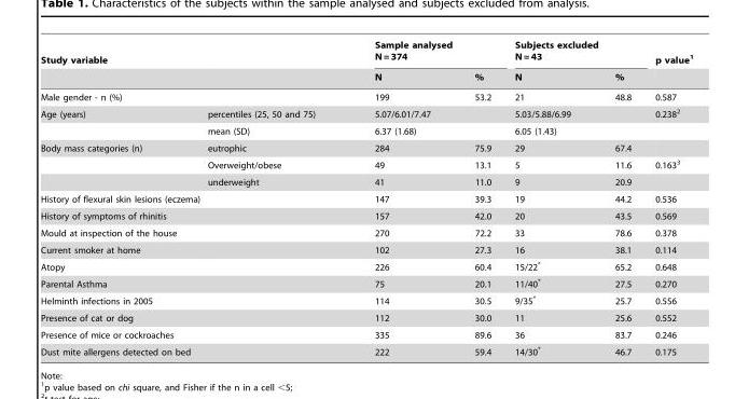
<table><thead><tr><td rowspan="2">Study variable</td><td rowspan="2"></td><td colspan="2">Sample analysed N = 374</td><td colspan="2">Subjects excluded N = 43</td><td rowspan="2">p value<sup>1</sup></td></tr><tr><td>N</td><td>%</td><td>N</td><td>%</td></tr></thead><tbody><tr><td>Male gender - n (%)</td><td></td><td>199</td><td>53.2</td><td>21</td><td>48.8</td><td>0.587</td></tr><tr><td rowspan="2">Age (years)</td><td>percentiles (25, 50 and 75)</td><td>5.07/6.01/7.47</td><td></td><td>5.03/5.88/6.99</td><td></td><td>0.238<sup>2</sup></td></tr><tr><td>mean (SD)</td><td>6.37 (1.68)</td><td></td><td>6.05 (1.43)</td><td></td><td></td></tr><tr><td rowspan="3">Body mass categories (n)</td><td>eutrophic</td><td>284</td><td>75.9</td><td>29</td><td>67.4</td><td></td></tr><tr><td>Overweight/obese</td><td>49</td><td>13.1</td><td>5</td><td>11.6</td><td>0.163<sup>3</sup></td></tr><tr><td>underweight</td><td>41</td><td>11.0</td><td>9</td><td>20.9</td><td></td></tr><tr><td>History of flexural skin lesions (eczema)</td><td></td><td>147</td><td>39.3</td><td>19</td><td>44.2</td><td>0.536</td></tr><tr><td>History of symptoms of rhinitis</td><td></td><td>157</td><td>42.0</td><td>20</td><td>43.5</td><td>0.569</td></tr><tr><td>Mould at inspection of the house</td><td></td><td>270</td><td>72.2</td><td>33</td><td>78.6</td><td>0.378</td></tr><tr><td>Current smoker at home</td><td></td><td>102</td><td>27.3</td><td>16</td><td>38.1</td><td>0.114</td></tr><tr><td>Atopy</td><td></td><td>226</td><td>60.4</td><td>15/22*</td><td>65.2</td><td>0.648</td></tr><tr><td>Parental Asthma</td><td></td><td>75</td><td>20.1</td><td>11/40*</td><td>27.5</td><td>0.270</td></tr><tr><td>Helminth infections in 2005</td><td></td><td>114</td><td>30.5</td><td>9/35*</td><td>25.7</td><td>0.556</td></tr><tr><td>Presence of cat or dog</td><td></td><td>112</td><td>30.0</td><td>11</td><td>25.6</td><td>0.552</td></tr><tr><td>Presence of mice or cockroaches</td><td></td><td>335</td><td>89.6</td><td>36</td><td>83.7</td><td>0.246</td></tr><tr><td>Dust mite allergens detected on bed</td><td></td><td>222</td><td>59.4</td><td>14/30*</td><td>46.7</td><td>0.175</td></tr></tbody></table>